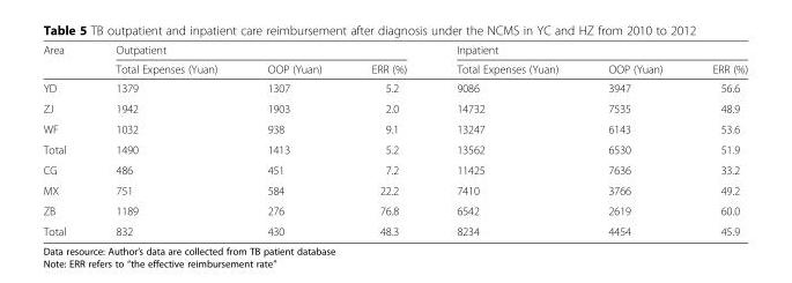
<table><thead><tr><td rowspan="2">Area</td><td colspan="3">Outpatient</td><td colspan="3">Inpatient</td></tr><tr><td>Total Expenses (Yuan)</td><td>OOP (Yuan)</td><td>ERR (%)</td><td>Total Expenses (Yuan)</td><td>OOP (Yuan)</td><td>ERR (%)</td></tr></thead><tbody><tr><td>YD</td><td>1379</td><td>1307</td><td>5.2</td><td>9086</td><td>3947</td><td>56.6</td></tr><tr><td>ZJ</td><td>1942</td><td>1903</td><td>2.0</td><td>14732</td><td>7535</td><td>48.9</td></tr><tr><td>WF</td><td>1032</td><td>938</td><td>9.1</td><td>13247</td><td>6143</td><td>53.6</td></tr><tr><td>Total</td><td>1490</td><td>1413</td><td>5.2</td><td>13562</td><td>6530</td><td>51.9</td></tr><tr><td>CG</td><td>486</td><td>451</td><td>7.2</td><td>11425</td><td>7636</td><td>33.2</td></tr><tr><td>MX</td><td>751</td><td>584</td><td>22.2</td><td>7410</td><td>3766</td><td>49.2</td></tr><tr><td>ZB</td><td>1189</td><td>276</td><td>76.8</td><td>6542</td><td>2619</td><td>60.0</td></tr><tr><td>Total</td><td>832</td><td>430</td><td>48.3</td><td>8234</td><td>4454</td><td>45.9</td></tr></tbody></table>